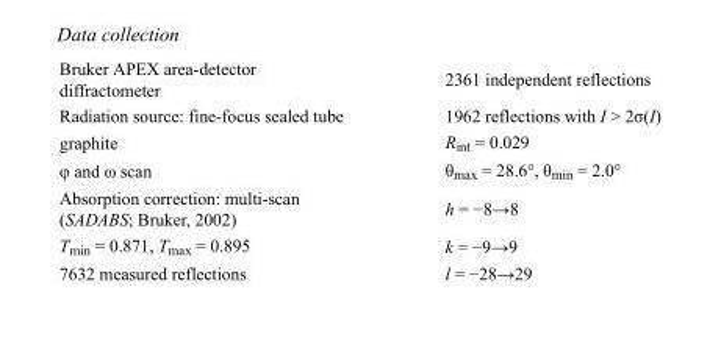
<table><tbody><tr><td>Bruker APEX area-detector diffractometer</td><td>2361 independent reflections</td></tr><tr><td>Radiation source: fine-focus sealed tube</td><td>1962 reflections with I &gt; 2σ(I)</td></tr><tr><td>graphite</td><td>R<sub>int</sub> = 0.029</td></tr><tr><td>φ and ω scan</td><td>θ<sub>max</sub> = 28.6°, θ<sub>min</sub> = 2.0°</td></tr><tr><td>Absorption correction: multi-scan (SADABS; Bruker, 2002)</td><td>h = −8→8</td></tr><tr><td>T<sub>min</sub> = 0.871, T<sub>max</sub> = 0.895</td><td>k = −9→9</td></tr><tr><td>7632 measured reflections</td><td>l = −28→29</td></tr></tbody></table>